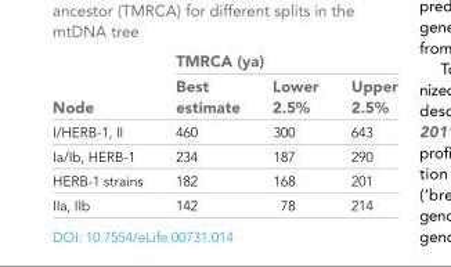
<table><thead><tr><td rowspan="2">Node</td><td colspan="3">TMRCA (ya)</td></tr><tr><td>Best estimate</td><td>Lower 2.5%</td><td>Upper 2.5%</td></tr></thead><tbody><tr><td>I/HERB-1, II</td><td>460</td><td>300</td><td>643</td></tr><tr><td>Ia/Ib, HERB-1</td><td>234</td><td>187</td><td>290</td></tr><tr><td>HERB-1 strains</td><td>182</td><td>168</td><td>201</td></tr><tr><td>IIa, IIb</td><td>142</td><td>78</td><td>214</td></tr></tbody></table>